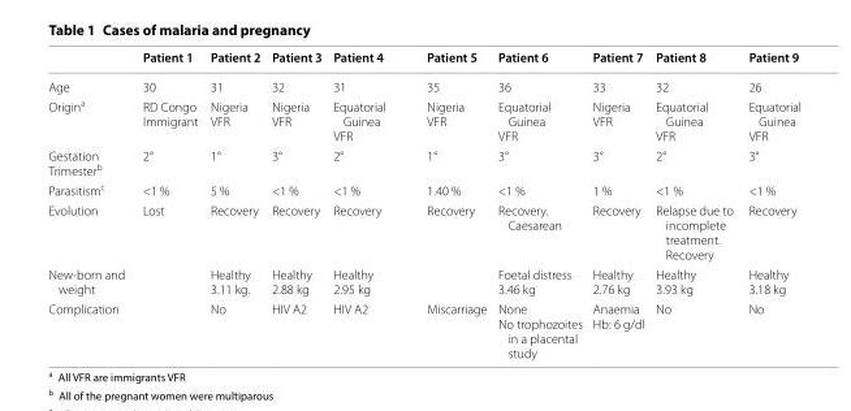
<table><thead><tr><td></td><td>Patient 1</td><td>Patient 2</td><td>Patient 3</td><td>Patient 4</td><td>Patient 5</td><td>Patient 6</td><td>Patient 7</td><td>Patient 8</td><td>Patient 9</td></tr></thead><tbody><tr><td>Age</td><td>30</td><td>31</td><td>32</td><td>31</td><td>35</td><td>36</td><td>33</td><td>32</td><td>26</td></tr><tr><td>Origin<sup>a</sup></td><td>RD Congo Immigrant</td><td>Nigeria VFR</td><td>Nigeria VFR</td><td>Equatorial Guinea VFR</td><td>Nigeria VFR</td><td>Equatorial Guinea VFR</td><td>Nigeria VFR</td><td>Equatorial Guinea VFR</td><td>Equatorial Guinea VFR</td></tr><tr><td>Gestation Trimester<sup>b</sup></td><td>2°</td><td>1°</td><td>3°</td><td>2°</td><td>1°</td><td>3°</td><td>3°</td><td>2°</td><td>3°</td></tr><tr><td>Parasitism<sup>c</sup></td><td>&lt;1 %</td><td>5 %</td><td>&lt;1 %</td><td>&lt;1 %</td><td>1.40 %</td><td>&lt;1 %</td><td>1 %</td><td>&lt;1 %</td><td>&lt;1 %</td></tr><tr><td>Evolution</td><td>Lost</td><td>Recovery</td><td>Recovery</td><td>Recovery</td><td>Recovery</td><td>Recovery. Caesarean</td><td>Recovery</td><td>Relapse due to incomplete treatment. Recovery</td><td>Recovery</td></tr><tr><td>New-born and weight</td><td></td><td>Healthy 3.11 kg.</td><td>Healthy 2.88 kg</td><td>Healthy 2.95 kg</td><td></td><td>Foetal distress 3.46 kg</td><td>Healthy 2.76 kg</td><td>Healthy 3.93 kg</td><td>Healthy 3.18 kg</td></tr><tr><td>Complication</td><td></td><td>No</td><td>HIV A2</td><td>HIV A2</td><td>Miscarriage</td><td>None No trophozoites in a placental study</td><td>Anaemia Hb: 6 g/dl</td><td>No</td><td>No</td></tr></tbody></table>